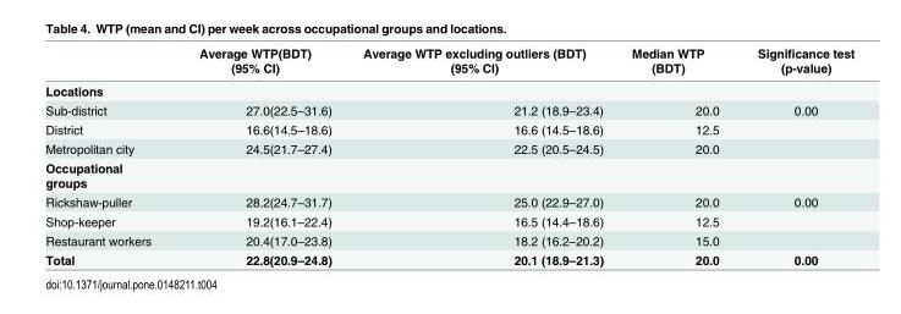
<table><thead><tr><td></td><td>Average WTP(BDT) (95% CI)</td><td>Average WTP excluding outliers (BDT) (95% CI)</td><td>Median WTP (BDT)</td><td>Significance test (p-value)</td></tr></thead><tbody><tr><td colspan="5">Locations</td></tr><tr><td>Sub-district</td><td>27.0(22.5–31.6)</td><td>21.2 (18.9–23.4)</td><td>20.0</td><td>0.00</td></tr><tr><td>District</td><td>16.6(14.5–18.6)</td><td>16.6 (14.5–18.6)</td><td>12.5</td><td></td></tr><tr><td>Metropolitan city</td><td>24.5(21.7–27.4)</td><td>22.5 (20.5–24.5)</td><td>20.0</td><td></td></tr><tr><td colspan="5">Occupational groups</td></tr><tr><td>Rickshaw-puller</td><td>28.2(24.7–31.7)</td><td>25.0 (22.9–27.0)</td><td>20.0</td><td>0.00</td></tr><tr><td>Shop-keeper</td><td>19.2(16.1–22.4)</td><td>16.5 (14.4–18.6)</td><td>12.5</td><td></td></tr><tr><td>Restaurant workers</td><td>20.4(17.0–23.8)</td><td>18.2 (16.2–20.2)</td><td>15.0</td><td></td></tr><tr><td>Total</td><td>22.8(20.9–24.8)</td><td>20.1 (18.9–21.3)</td><td>20.0</td><td>0.00</td></tr></tbody></table>